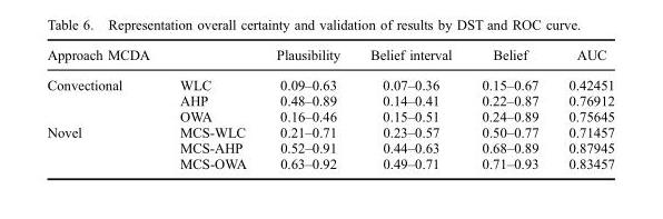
<table><thead><tr><td>Approach MCDA</td><td></td><td>Plausibility</td><td>Belief interval</td><td>Belief</td><td>AUC</td></tr></thead><tbody><tr><td rowspan="3">Convectional</td><td>WLC</td><td>0.09–0.63</td><td>0.07–0.36</td><td>0.15–0.67</td><td>0.42451</td></tr><tr><td>AHP</td><td>0.48–0.89</td><td>0.14–0.41</td><td>0.22–0.87</td><td>0.76912</td></tr><tr><td>OWA</td><td>0.16–0.46</td><td>0.15–0.51</td><td>0.24–0.89</td><td>0.75645</td></tr><tr><td rowspan="3">Novel</td><td>MCS-WLC</td><td>0.21–0.71</td><td>0.23–0.57</td><td>0.50–0.77</td><td>0.71457</td></tr><tr><td>MCS-AHP</td><td>0.52–0.91</td><td>0.44–0.63</td><td>0.68–0.89</td><td>0.87945</td></tr><tr><td>MCS-OWA</td><td>0.63–0.92</td><td>0.49–0.71</td><td>0.71–0.93</td><td>0.83457</td></tr></tbody></table>